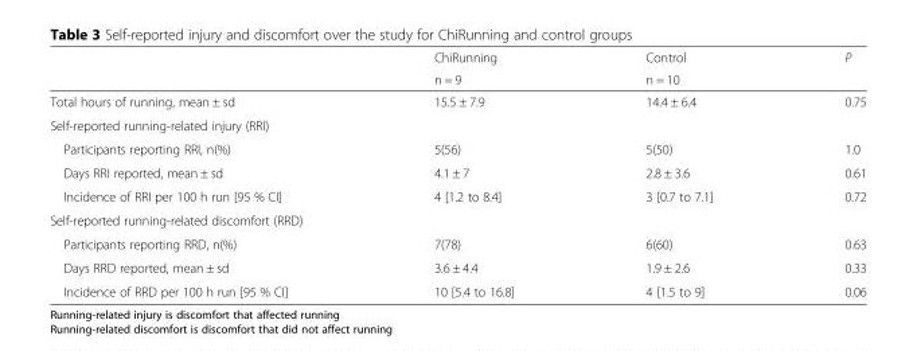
<table><thead><tr><td rowspan="2"></td><td rowspan="2">ChiRunning n = 9</td><td rowspan="2">Control n = 10</td><td rowspan="2">P</td></tr><tr></tr></thead><tbody><tr><td>Total hours of running, mean ± sd</td><td>15.5 ± 7.9</td><td>14.4 ± 6.4</td><td>0.75</td></tr><tr><td colspan="4">Self-reported running-related injury (RRI)</td></tr><tr><td>Participants reporting RRI, n(%)</td><td>5(56)</td><td>5(50)</td><td>1.0</td></tr><tr><td>Days RRI reported, mean ± sd</td><td>4.1 ± 7</td><td>2.8 ± 3.6</td><td>0.61</td></tr><tr><td>Incidence of RRI per 100 h run [95 % CI]</td><td>4 [1.2 to 8.4]</td><td>3 [0.7 to 7.1]</td><td>0.72</td></tr><tr><td colspan="4">Self-reported running-related discomfort (RRD)</td></tr><tr><td>Participants reporting RRD, n(%)</td><td>7(78)</td><td>6(60)</td><td>0.63</td></tr><tr><td>Days RRD reported, mean ± sd</td><td>3.6 ± 4.4</td><td>1.9 ± 2.6</td><td>0.33</td></tr><tr><td>Incidence of RRD per 100 h run [95 % CI]</td><td>10 [5.4 to 16.8]</td><td>4 [1.5 to 9]</td><td>0.06</td></tr></tbody></table>